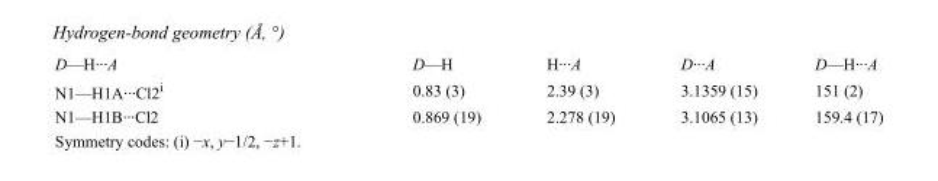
<table><tbody><tr><td>D—H···A</td><td>D—H</td><td>H···A</td><td>D···A</td><td>D—H···A</td></tr><tr><td>N1—H1A···Cl2<sup>i</sup></td><td>0.83 (3)</td><td>2.39 (3)</td><td>3.1359 (15)</td><td>151 (2)</td></tr><tr><td>N1—H1B···Cl2</td><td>0.869 (19)</td><td>2.278 (19)</td><td>3.1065 (13)</td><td>159.4 (17)</td></tr></tbody></table>